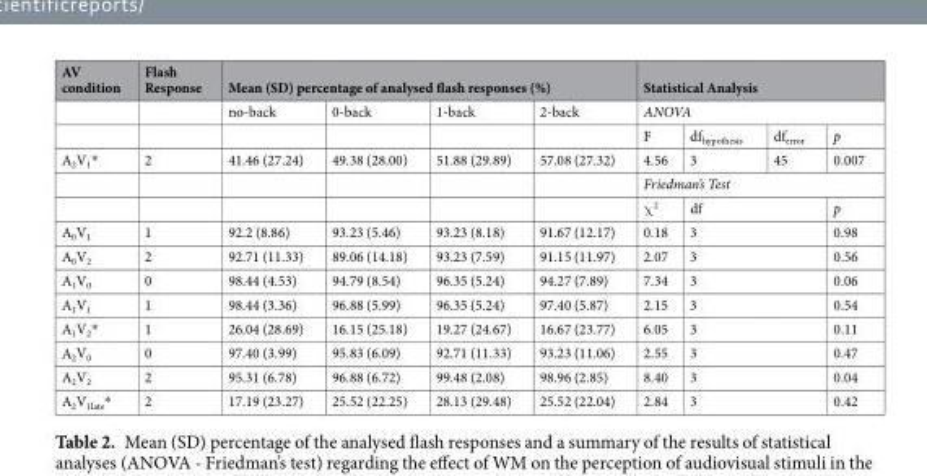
<table><thead><tr><td rowspan="3">AV condition</td><td rowspan="3">Flash Response</td><td colspan="4">Mean (SD) percentage of analysed flash responses (%)</td><td rowspan="2" colspan="4">Statistical Analysis ANOVA</td></tr><tr><td rowspan="2">no-back</td><td rowspan="2">0-back</td><td rowspan="2">1-back</td><td rowspan="2">2-back</td></tr><tr><td>F</td><td>df<sub>hypothesis</sub></td><td>df<sub>error</sub></td><td>p</td></tr></thead><tbody><tr><td rowspan="3">A<sub>2</sub>V<sub>1</sub>*</td><td>2</td><td>41.46 (27.24)</td><td>49.38 (28.00)</td><td>51.88 (29.89)</td><td>57.08 (27.32)</td><td>4.56</td><td>3</td><td>45</td><td>0.007</td></tr><tr><td></td><td></td><td></td><td></td><td></td><td colspan="4">Friedman’s Test</td></tr><tr><td></td><td></td><td></td><td></td><td></td><td>χ<sup>2</sup></td><td colspan="2">df</td><td>p</td></tr><tr><td>A<sub>0</sub>V<sub>1</sub></td><td>1</td><td>92.2 (8.86)</td><td>93.23 (5.46)</td><td>93.23 (8.18)</td><td>91.67 (12.17)</td><td>0.18</td><td colspan="2">3</td><td>0.98</td></tr><tr><td>A<sub>0</sub>V<sub>2</sub></td><td>2</td><td>92.71 (11.33)</td><td>89.06 (14.18)</td><td>93.23 (7.59)</td><td>91.15 (11.97)</td><td>2.07</td><td colspan="2">3</td><td>0.56</td></tr><tr><td>A<sub>1</sub>V<sub>0</sub></td><td>0</td><td>98.44 (4.53)</td><td>94.79 (8.54)</td><td>96.35 (5.24)</td><td>94.27 (7.89)</td><td>7.34</td><td colspan="2">3</td><td>0.06</td></tr><tr><td>A<sub>1</sub>V<sub>1</sub></td><td>1</td><td>98.44 (3.36)</td><td>96.88 (5.99)</td><td>96.35 (5.24)</td><td>97.40 (5.87)</td><td>2.15</td><td colspan="2">3</td><td>0.54</td></tr><tr><td>A<sub>1</sub>V<sub>2</sub>*</td><td>1</td><td>26.04 (28.69)</td><td>16.15 (25.18)</td><td>19.27 (24.67)</td><td>16.67 (23.77)</td><td>6.05</td><td colspan="2">3</td><td>0.11</td></tr><tr><td>A<sub>2</sub>V<sub>0</sub></td><td>0</td><td>97.40 (3.99)</td><td>95.83 (6.09)</td><td>92.71 (11.33)</td><td>93.23 (11.06)</td><td>2.55</td><td colspan="2">3</td><td>0.47</td></tr><tr><td>A<sub>2</sub>V<sub>2</sub></td><td>2</td><td>95.31 (6.78)</td><td>96.88 (6.72)</td><td>99.48 (2.08)</td><td>98.96 (2.85)</td><td>8.40</td><td colspan="2">3</td><td>0.04</td></tr><tr><td>A<sub>2</sub>V<sub>1late</sub>*</td><td>2</td><td>17.19 (23.27)</td><td>25.52 (22.25)</td><td>28.13 (29.48)</td><td>25.52 (22.04)</td><td>2.84</td><td colspan="2">3</td><td>0.42</td></tr></tbody></table>